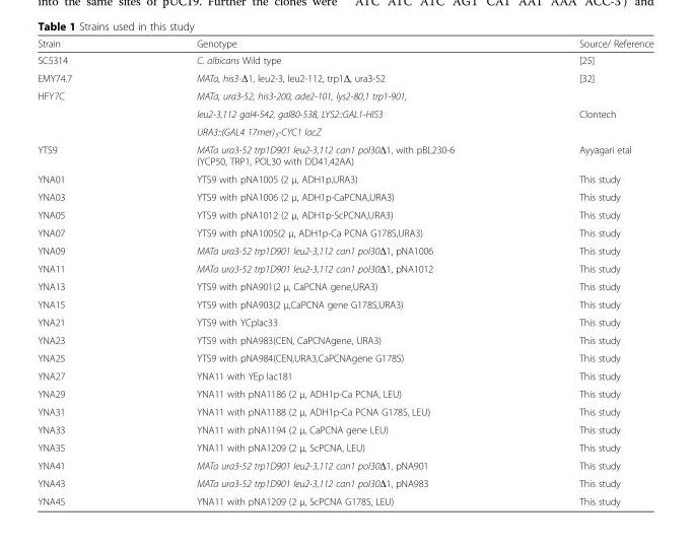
<table><thead><tr><td>Strain</td><td>Genotype</td><td>Source/ Reference</td></tr></thead><tbody><tr><td>SC5314</td><td>C. albicans Wild type</td><td>[25]</td></tr><tr><td>EMY74.7</td><td>MATa, his3-Δ1, leu2-3, leu2-112, trp1Δ, ura3-52</td><td>[32]</td></tr><tr><td rowspan="3">HFY7C</td><td>MATa, ura3-52, his3-200, ade2-101, lys2-80,1 trp1-901,</td><td></td></tr><tr><td>leu2-3,112 gal4-542, gal80-538, LYS2::GAL1-HIS3</td><td>Clontech</td></tr><tr><td>URA3::(GAL4 17mer)<sub>3</sub>-CYC1 lacZ</td><td></td></tr><tr><td>YTS9</td><td>MATa ura3-52 trp1D901 leu2-3,112 can1 pol30Δ1, with pBL230-6 (YCP50, TRP1, POL30 with DD41,42AA)</td><td>Ayyagari etal</td></tr><tr><td>YNA01</td><td>YTS9 with pNA1005 (2 μ, ADH1p,URA3)</td><td>This study</td></tr><tr><td>YNA03</td><td>YTS9 with pNA1006 (2 μ, ADH1p-CaPCNA,URA3)</td><td>This study</td></tr><tr><td>YNA05</td><td>YTS9 with pNA1012 (2 μ, ADH1p-ScPCNA,URA3)</td><td>This study</td></tr><tr><td>YNA07</td><td>YTS9 with pNA1005(2 μ, ADH1p-Ca PCNA G178S,URA3)</td><td>This study</td></tr><tr><td>YNA09</td><td>MATa ura3-52 trp1D901 leu2-3,112 can1 pol30Δ1, pNA1006</td><td>This study</td></tr><tr><td>YNA11</td><td>MATa ura3-52 trp1D901 leu2-3,112 can1 pol30Δ1, pNA1012</td><td>This study</td></tr><tr><td>YNA13</td><td>YTS9 with pNA901(2 μ, CaPCNA gene,URA3)</td><td>This study</td></tr><tr><td>YNA15</td><td>YTS9 with pNA903(2 μ,CaPCNA gene G178S,URA3)</td><td>This study</td></tr><tr><td>YNA21</td><td>YTS9 with YCplac33</td><td>This study</td></tr><tr><td>YNA23</td><td>YTS9 with pNA983(CEN, CaPCNAgene, URA3)</td><td>This study</td></tr><tr><td>YNA25</td><td>YTS9 with pNA984(CEN,URA3,CaPCNAgene G178S)</td><td>This study</td></tr><tr><td>YNA27</td><td>YNA11 with YEp lac181</td><td>This study</td></tr><tr><td>YNA29</td><td>YNA11 with pNA1186 (2 μ, ADH1p-Ca PCNA, LEU)</td><td>This study</td></tr><tr><td>YNA31</td><td>YNA11 with pNA1188 (2 μ, ADH1p-Ca PCNA G178S, LEU)</td><td>This study</td></tr><tr><td>YNA33</td><td>YNA11 with pNA1194 (2 μ, CaPCNA gene LEU)</td><td>This study</td></tr><tr><td>YNA35</td><td>YNA11 with pNA1209 (2 μ, ScPCNA, LEU)</td><td>This study</td></tr><tr><td>YNA41</td><td>MATa ura3-52 trp1D901 leu2-3,112 can1 pol30Δ1, pNA901</td><td>This study</td></tr><tr><td>YNA43</td><td>MATa ura3-52 trp1D901 leu2-3,112 can1 pol30Δ1, pNA983</td><td>This study</td></tr><tr><td>YNA45</td><td>YNA11 with pNA1209 (2 μ, ScPCNA G178S, LEU)</td><td>This study</td></tr></tbody></table>